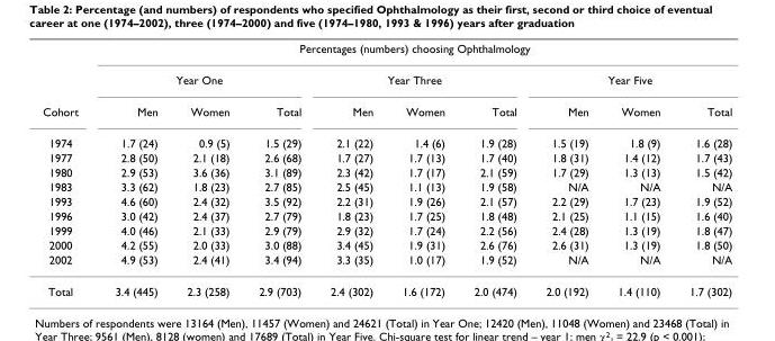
<table><thead><tr><td rowspan="12">Cohort 1974 1977 1980 1983 1993 1996 1999 2000 2002</td><td colspan="9">Percentages (numbers) choosing Ophthalmology</td></tr><tr><td colspan="3">Year One</td><td colspan="3">Year Three</td><td colspan="3">Year Five</td></tr><tr><td rowspan="10">Men 1.7 (24) 2.8 (50) 2.9 (53) 3.3 (62) 4.6 (60) 3.0 (42) 4.0 (46) 4.2 (55) 4.9 (53)</td><td rowspan="10">Women 0.9 (5) 2.1 (18) 3.6 (36) 1.8 (23) 2.4 (32) 2.4 (37) 2.1 (33) 2.0 (33) 2.4 (41)</td><td rowspan="10">Total 1.5 (29) 2.6 (68) 3.1 (89) 2.7 (85) 3.5 (92) 2.7 (79) 2.9 (79) 3.0 (88) 3.4 (94)</td><td rowspan="10">Men 2.1 (22) 1.7 (27) 2.3 (42) 2.5 (45) 2.2 (31) 1.8 (23) 2.9 (32) 3.4 (45) 3.3 (35)</td><td rowspan="10">Women 1.4 (6) 1.7 (13) 1.7 (17) 1.1 (13) 1.9 (26) 1.7 (25) 1.7 (24) 1.9 (31) 1.0 (17)</td><td rowspan="10">Total 1.9 (28) 1.7 (40) 2.1 (59) 1.9 (58) 2.1 (57) 1.8 (48) 2.2 (56) 2.6 (76) 1.9 (52)</td><td rowspan="10">Men 1.5 (19) 1.8 (31) 1.7 (29) N/A 2.2 (29) 2.1 (25) 2.4 (28) 2.6 (31) N/A</td><td rowspan="10">Women 1.8 (9) 1.4 (12) 1.3 (13) N/A 1.7 (23) 1.1 (15) 1.3 (19) 1.3 (19) N/A</td><td rowspan="10">Total 1.6 (28) 1.7 (43) 1.5 (42) N/A 1.9 (52) 1.6 (40) 1.8 (47) 1.8 (50) N/A</td></tr><tr></tr><tr></tr><tr></tr><tr></tr><tr></tr><tr></tr><tr></tr><tr></tr><tr></tr></thead><tbody><tr><td>Total</td><td>3.4 (445)</td><td>2.3 (258)</td><td>2.9 (703)</td><td>2.4 (302)</td><td>1.6 (172)</td><td>2.0 (474)</td><td>2.0 (192)</td><td>1.4 (110)</td><td>1.7 (302)</td></tr></tbody></table>